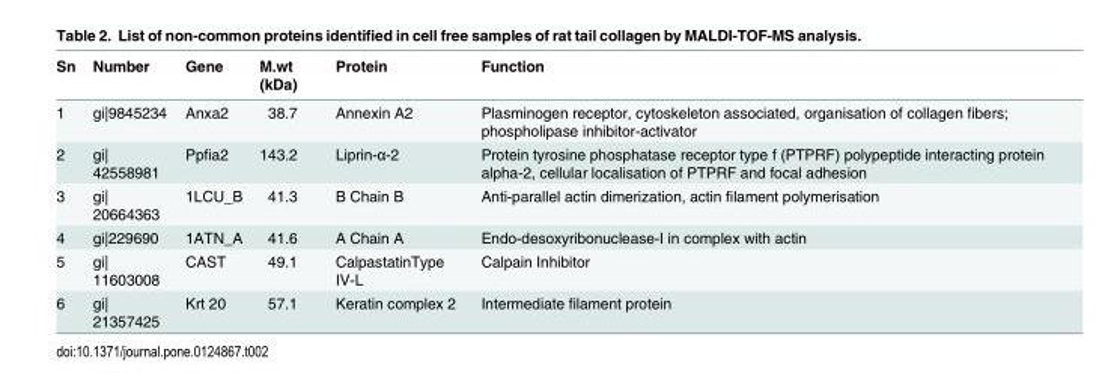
<table><thead><tr><td>Sn</td><td>Number</td><td>Gene</td><td>M.wt (kDa)</td><td>Protein</td><td>Function</td></tr></thead><tbody><tr><td>1</td><td>gi|9845234</td><td>Anxa2</td><td>38.7</td><td>Annexin A2</td><td>Plasminogen receptor, cytoskeleton associated, organisation of collagen fibers; phospholipase inhibitor-activator</td></tr><tr><td>2</td><td>gi| 42558981</td><td>Ppfia2</td><td>143.2</td><td>Liprin-α-2</td><td>Protein tyrosine phosphatase receptor type f (PTPRF) polypeptide interacting protein alpha-2, cellular localisation of PTPRF and focal adhesion</td></tr><tr><td>3</td><td>gi| 20664363</td><td>1LCU_B</td><td>41.3</td><td>B Chain B</td><td>Anti-parallel actin dimerization, actin filament polymerisation</td></tr><tr><td>4</td><td>gi|229690</td><td>1ATN_A</td><td>41.6</td><td>A Chain A</td><td>Endo-desoxyribonuclease-I in complex with actin</td></tr><tr><td>5</td><td>gi| 11603008</td><td>CAST</td><td>49.1</td><td>CalpastatinType IV-L</td><td>Calpain Inhibitor</td></tr><tr><td>6</td><td>gi| 21357425</td><td>Krt 20</td><td>57.1</td><td>Keratin complex 2</td><td>Intermediate filament protein</td></tr></tbody></table>